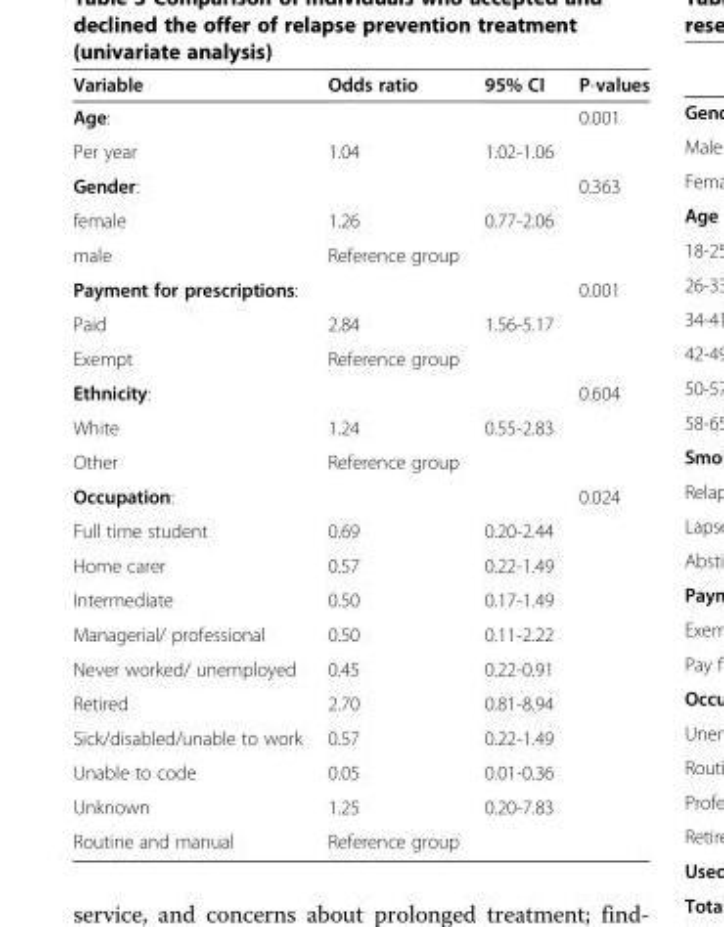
<table><thead><tr><td>Variable</td><td>Odds ratio</td><td>95% CI</td><td>P-values</td></tr></thead><tbody><tr><td colspan="3">Age:</td><td rowspan="2">0.001</td></tr><tr><td>Per year</td><td>1.04</td><td>1.02-1.06</td></tr><tr><td colspan="3">Gender:</td><td rowspan="3">0.363</td></tr><tr><td>female</td><td>1.26</td><td>0.77-2.06</td></tr><tr><td>male</td><td>Reference group</td><td></td></tr><tr><td colspan="3">Payment for prescriptions:</td><td rowspan="3">0.001</td></tr><tr><td>Paid</td><td>2.84</td><td>1.56-5.17</td></tr><tr><td>Exempt</td><td>Reference group</td><td></td></tr><tr><td colspan="3">Ethnicity:</td><td rowspan="3">0.604</td></tr><tr><td>White</td><td>1.24</td><td>0.55-2.83</td></tr><tr><td>Other</td><td>Reference group</td><td></td></tr><tr><td colspan="3">Occupation:</td><td rowspan="10">0.024</td></tr><tr><td>Full time student</td><td>0.69</td><td>0.20-2.44</td></tr><tr><td>Home carer</td><td>0.57</td><td>0.22-1.49</td></tr><tr><td>Intermediate</td><td>0.50</td><td>0.17-1.49</td></tr><tr><td>Managerial/ professional</td><td>0.50</td><td>0.11-2.22</td></tr><tr><td>Never worked/ unemployed</td><td>0.45</td><td>0.22-0.91</td></tr><tr><td>Retired</td><td>2.70</td><td>0.81-8.94</td></tr><tr><td>Sick/disabled/unable to work</td><td>0.57</td><td>0.22-1.49</td></tr><tr><td>Unable to code</td><td>0.05</td><td>0.01-0.36</td></tr><tr><td>Unknown</td><td>1.25</td><td>0.20-7.83</td></tr><tr><td>Routine and manual</td><td>Reference group</td><td></td><td></td></tr></tbody></table>